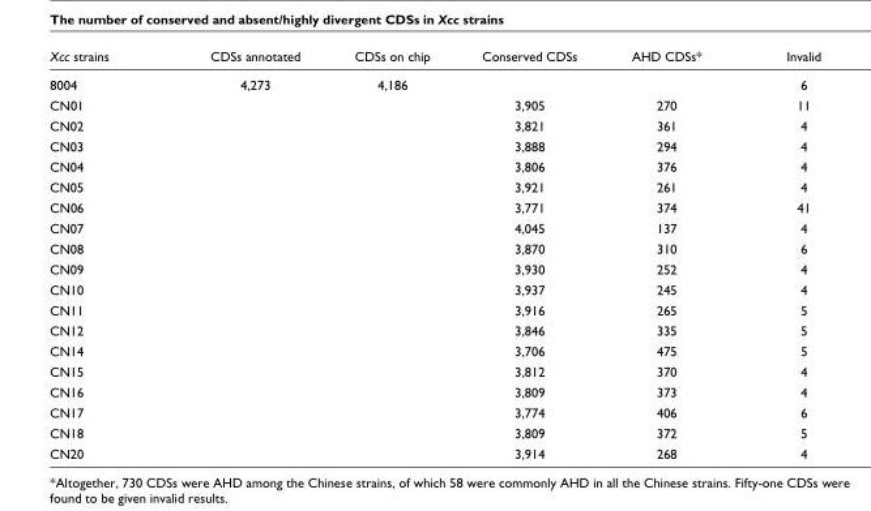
<table><thead><tr><td>Xcc strains</td><td>CDSs annotated</td><td>CDSs on chip</td><td>Conserved CDSs</td><td>AHD CDSs*</td><td>Invalid</td></tr></thead><tbody><tr><td>8004</td><td>4,273</td><td>4,186</td><td></td><td></td><td>6</td></tr><tr><td>CN01</td><td></td><td></td><td>3,905</td><td>270</td><td>11</td></tr><tr><td>CN02</td><td></td><td></td><td>3,821</td><td>361</td><td>4</td></tr><tr><td>CN03</td><td></td><td></td><td>3,888</td><td>294</td><td>4</td></tr><tr><td>CN04</td><td></td><td></td><td>3,806</td><td>376</td><td>4</td></tr><tr><td>CN05</td><td></td><td></td><td>3,921</td><td>261</td><td>4</td></tr><tr><td>CN06</td><td></td><td></td><td>3,771</td><td>374</td><td>41</td></tr><tr><td>CN07</td><td></td><td></td><td>4,045</td><td>137</td><td>4</td></tr><tr><td>CN08</td><td></td><td></td><td>3,870</td><td>310</td><td>6</td></tr><tr><td>CN09</td><td></td><td></td><td>3,930</td><td>252</td><td>4</td></tr><tr><td>CN10</td><td></td><td></td><td>3,937</td><td>245</td><td>4</td></tr><tr><td>CN11</td><td></td><td></td><td>3,916</td><td>265</td><td>5</td></tr><tr><td>CN12</td><td></td><td></td><td>3,846</td><td>335</td><td>5</td></tr><tr><td>CN14</td><td></td><td></td><td>3,706</td><td>475</td><td>5</td></tr><tr><td>CN15</td><td></td><td></td><td>3,812</td><td>370</td><td>4</td></tr><tr><td>CN16</td><td></td><td></td><td>3,809</td><td>373</td><td>4</td></tr><tr><td>CN17</td><td></td><td></td><td>3,774</td><td>406</td><td>6</td></tr><tr><td>CN18</td><td></td><td></td><td>3,809</td><td>372</td><td>5</td></tr><tr><td>CN20</td><td></td><td></td><td>3,914</td><td>268</td><td>4</td></tr></tbody></table>